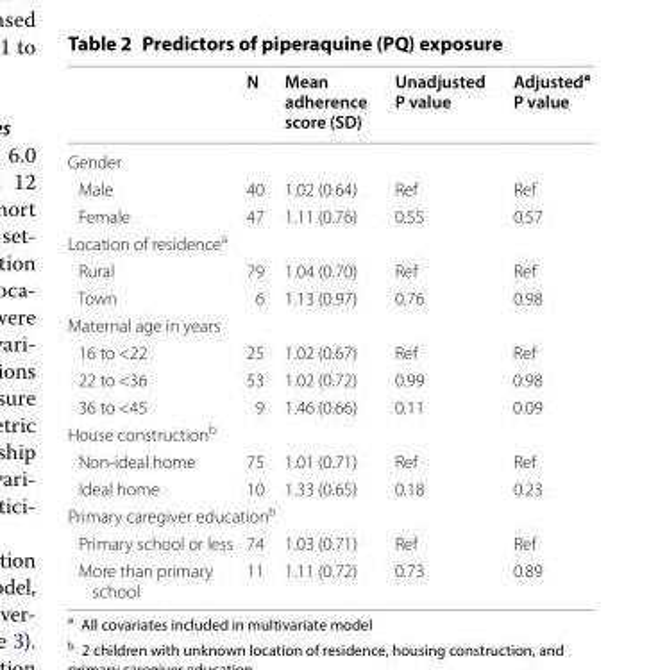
<table><thead><tr><td></td><td>N</td><td>Mean adherence score (SD)</td><td>Unadjusted P value</td><td>Adjusted<sup>a</sup> P value</td></tr></thead><tbody><tr><td colspan="5">Gender</td></tr><tr><td>Male</td><td>40</td><td>1.02 (0.64)</td><td>Ref</td><td>Ref</td></tr><tr><td>Female</td><td>47</td><td>1.11 (0.76)</td><td>0.55</td><td>0.57</td></tr><tr><td colspan="5">Location of residence<sup>a</sup></td></tr><tr><td>Rural</td><td>79</td><td>1.04 (0.70)</td><td>Ref</td><td>Ref</td></tr><tr><td>Town</td><td>6</td><td>1.13 (0.97)</td><td>0.76</td><td>0.98</td></tr><tr><td colspan="5">Maternal age in years</td></tr><tr><td>16 to &lt;22</td><td>25</td><td>1.02 (0.67)</td><td>Ref</td><td>Ref</td></tr><tr><td>22 to &lt;36</td><td>53</td><td>1.02 (0.72)</td><td>0.99</td><td>0.98</td></tr><tr><td>36 to &lt;45</td><td>9</td><td>1.46 (0.66)</td><td>0.11</td><td>0.09</td></tr><tr><td colspan="5">House construction<sup>b</sup></td></tr><tr><td>Non-ideal home</td><td>75</td><td>1.01 (0.71)</td><td>Ref</td><td>Ref</td></tr><tr><td>Ideal home</td><td>10</td><td>1.33 (0.65)</td><td>0.18</td><td>0.23</td></tr><tr><td colspan="5">Primary caregiver education<sup>b</sup></td></tr><tr><td>Primary school or less</td><td>74</td><td>1.03 (0.71)</td><td>Ref</td><td>Ref</td></tr><tr><td>More than primary school</td><td>11</td><td>1.11 (0.72)</td><td>0.73</td><td>0.89</td></tr></tbody></table>